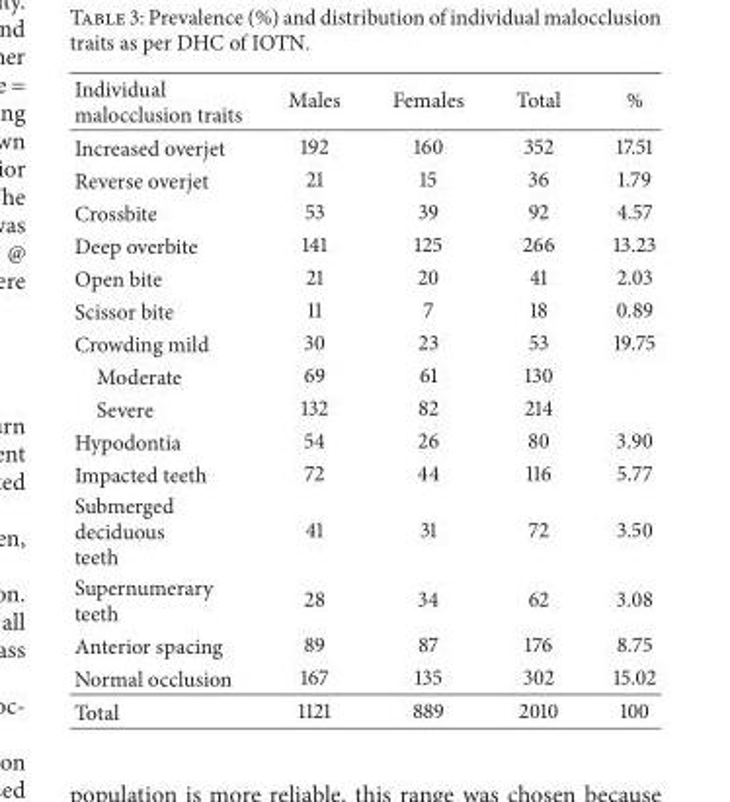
<table><thead><tr><td>Individual malocclusion traits</td><td>Males</td><td>Females</td><td>Total</td><td>%</td></tr></thead><tbody><tr><td>Increased overjet</td><td>192</td><td>160</td><td>352</td><td>17.51</td></tr><tr><td>Reverse overjet</td><td>21</td><td>15</td><td>36</td><td>1.79</td></tr><tr><td>Crossbite</td><td>53</td><td>39</td><td>92</td><td>4.57</td></tr><tr><td>Deep overbite</td><td>141</td><td>125</td><td>266</td><td>13.23</td></tr><tr><td>Open bite</td><td>21</td><td>20</td><td>41</td><td>2.03</td></tr><tr><td>Scissor bite</td><td>11</td><td>7</td><td>18</td><td>0.89</td></tr><tr><td>Crowding mild</td><td>30</td><td>23</td><td>53</td><td>19.75</td></tr><tr><td>Moderate</td><td>69</td><td>61</td><td>130</td><td></td></tr><tr><td>Severe</td><td>132</td><td>82</td><td>214</td><td></td></tr><tr><td>Hypodontia</td><td>54</td><td>26</td><td>80</td><td>3.90</td></tr><tr><td>Impacted teeth</td><td>72</td><td>44</td><td>116</td><td>5.77</td></tr><tr><td>Submerged deciduous teeth</td><td>41</td><td>31</td><td>72</td><td>3.50</td></tr><tr><td>Supernumerary teeth</td><td>28</td><td>34</td><td>62</td><td>3.08</td></tr><tr><td>Anterior spacing</td><td>89</td><td>87</td><td>176</td><td>8.75</td></tr><tr><td>Normal occlusion</td><td>167</td><td>135</td><td>302</td><td>15.02</td></tr><tr><td>Total</td><td>1121</td><td>889</td><td>2010</td><td>100</td></tr></tbody></table>